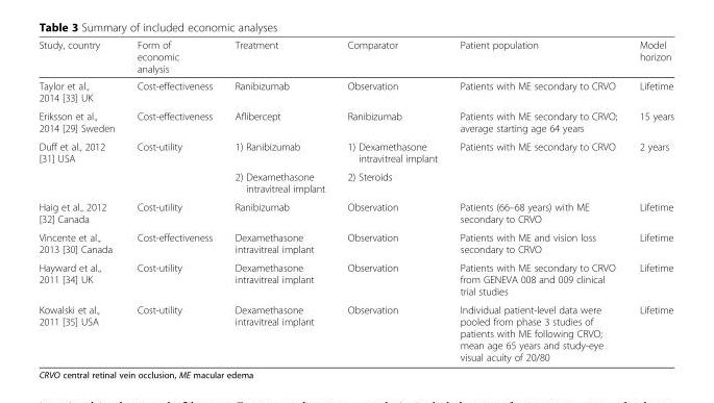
<table><thead><tr><td>Study, country</td><td>Form of economic analysis</td><td>Treatment</td><td>Comparator</td><td>Patient population</td><td>Model horizon</td></tr></thead><tbody><tr><td>Taylor et al., 2014 [33] UK</td><td>Cost-effectiveness</td><td>Ranibizumab</td><td>Observation</td><td>Patients with ME secondary to CRVO</td><td>Lifetime</td></tr><tr><td>Eriksson et al., 2014 [29] Sweden</td><td>Cost-effectiveness</td><td>Aflibercept</td><td>Ranibizumab</td><td>Patients with ME secondary to CRVO; average starting age 64 years</td><td>15 years</td></tr><tr><td rowspan="2">Duff et al., 2012 [31] USA</td><td rowspan="2">Cost-utility</td><td>1) Ranibizumab</td><td>1) Dexamethasone intravitreal implant</td><td rowspan="2">Patients with ME secondary to CRVO</td><td rowspan="2">2 years</td></tr><tr><td>2) Dexamethasone intravitreal implant</td><td>2) Steroids</td></tr><tr><td>Haig et al., 2012 [32] Canada</td><td>Cost-utility</td><td>Ranibizumab</td><td>Observation</td><td>Patients (66–68 years) with ME secondary to CRVO</td><td>Lifetime</td></tr><tr><td>Vincente et al., 2013 [30] Canada</td><td>Cost-effectiveness</td><td>Dexamethasone intravitreal implant</td><td>Observation</td><td>Patients with ME and vision loss secondary to CRVO</td><td>Lifetime</td></tr><tr><td>Hayward et al., 2011 [34] UK</td><td>Cost-utility</td><td>Dexamethasone intravitreal implant</td><td>Observation</td><td>Patients with ME secondary to CRVO from GENEVA 008 and 009 clinical trial studies</td><td>Lifetime</td></tr><tr><td>Kowalski et al., 2011 [35] USA</td><td>Cost-utility</td><td>Dexamethasone intravitreal implant</td><td>Observation</td><td>Individual patient-level data were pooled from phase 3 studies of patients with ME following CRVO; mean age 65 years and study-eye visual acuity of 20/80</td><td>Lifetime</td></tr></tbody></table>